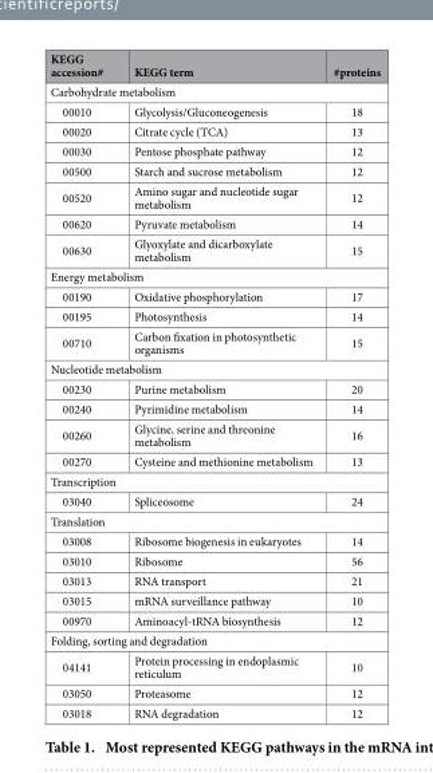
<table><thead><tr><td>KEGG accession#</td><td>KEGG term</td><td>#proteins</td></tr></thead><tbody><tr><td colspan="3">Carbohydrate metabolism</td></tr><tr><td>00010</td><td>Glycolysis/Gluconeogenesis</td><td>18</td></tr><tr><td>00020</td><td>Citrate cycle (TCA)</td><td>13</td></tr><tr><td>00030</td><td>Pentose phosphate pathway</td><td>12</td></tr><tr><td>00500</td><td>Starch and sucrose metabolism</td><td>12</td></tr><tr><td>00520</td><td>Amino sugar and nucleotide sugar metabolism</td><td>12</td></tr><tr><td>00620</td><td>Pyruvate metabolism</td><td>14</td></tr><tr><td>00630</td><td>Glyoxylate and dicarboxylate metabolism</td><td>15</td></tr><tr><td colspan="3">Energy metabolism</td></tr><tr><td>00190</td><td>Oxidative phosphorylation</td><td>17</td></tr><tr><td>00195</td><td>Photosynthesis</td><td>14</td></tr><tr><td>00710</td><td>Carbon fixation in photosynthetic organisms</td><td>15</td></tr><tr><td colspan="3">Nucleotide metabolism</td></tr><tr><td>00230</td><td>Purine metabolism</td><td>20</td></tr><tr><td>00240</td><td>Pyrimidine metabolism</td><td>14</td></tr><tr><td>00260</td><td>Glycine, serine and threonine metabolism</td><td>16</td></tr><tr><td>00270</td><td>Cysteine and methionine metabolism</td><td>13</td></tr><tr><td colspan="3">Transcription</td></tr><tr><td>03040</td><td>Spliceosome</td><td>24</td></tr><tr><td colspan="3">Translation</td></tr><tr><td>03008</td><td>Ribosome biogenesis in eukaryotes</td><td>14</td></tr><tr><td>03010</td><td>Ribosome</td><td>56</td></tr><tr><td>03013</td><td>RNA transport</td><td>21</td></tr><tr><td>03015</td><td>mRNA surveillance pathway</td><td>10</td></tr><tr><td>00970</td><td>Aminoacyl-tRNA biosynthesis</td><td>12</td></tr><tr><td colspan="3">Folding, sorting and degradation</td></tr><tr><td>04141</td><td>Protein processing in endoplasmic reticulum</td><td>10</td></tr><tr><td>03050</td><td>Proteasome</td><td>12</td></tr><tr><td>03018</td><td>RNA degradation</td><td>12</td></tr></tbody></table>